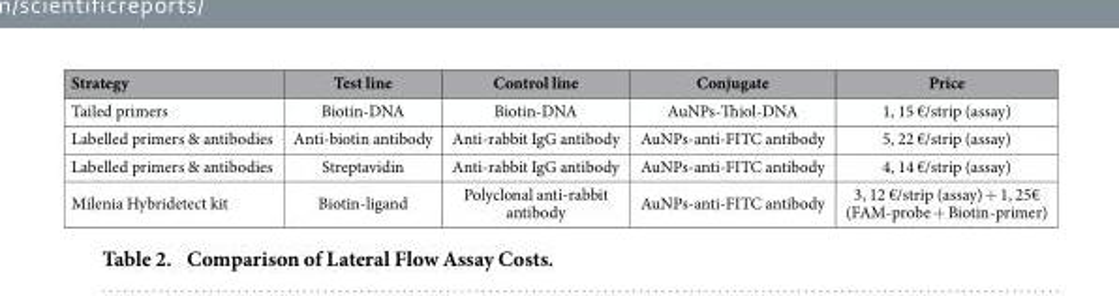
<table><thead><tr><td>Strategy</td><td>Test line</td><td>Control line</td><td>Conjugate</td><td>Price</td></tr></thead><tbody><tr><td>Tailed primers</td><td>Biotin-DNA</td><td>Biotin-DNA</td><td>AuNPs-Thiol-DNA</td><td>1, 15 €/strip (assay)</td></tr><tr><td>Labelled primers &amp; antibodies</td><td>Anti-biotin antibody</td><td>Anti-rabbit IgG antibody</td><td>AuNPs-anti-FITC antibody</td><td>5, 22 €/strip (assay)</td></tr><tr><td>Labelled primers &amp; antibodies</td><td>Streptavidin</td><td>Anti-rabbit IgG antibody</td><td>AuNPs-anti-FITC antibody</td><td>4, 14 €/strip (assay)</td></tr><tr><td>Milenia Hybridetect kit</td><td>Biotin-ligand</td><td>Polyclonal anti-rabbit antibody</td><td>AuNPs-anti-FITC antibody</td><td>3, 12 €/strip (assay) + 1, 25€ (FAM-probe + Biotin-primer)</td></tr></tbody></table>